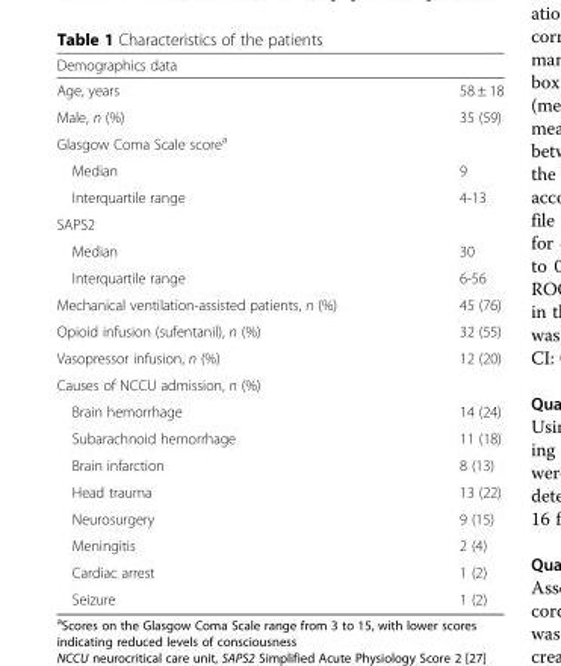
<table><thead><tr><td>Demographics data</td><td></td></tr></thead><tbody><tr><td>Age, years</td><td>58 ± 18</td></tr><tr><td>Male, n (%)</td><td>35 (59)</td></tr><tr><td colspan="2">Glasgow Coma Scale score<sup>a</sup></td></tr><tr><td>Median</td><td>9</td></tr><tr><td>Interquartile range</td><td>4-13</td></tr><tr><td colspan="2">SAPS2</td></tr><tr><td>Median</td><td>30</td></tr><tr><td>Interquartile range</td><td>6-56</td></tr><tr><td>Mechanical ventilation-assisted patients, n (%)</td><td>45 (76)</td></tr><tr><td>Opioid infusion (sufentanil), n (%)</td><td>32 (55)</td></tr><tr><td>Vasopressor infusion, n (%)</td><td>12 (20)</td></tr><tr><td colspan="2">Causes of NCCU admission, n (%)</td></tr><tr><td>Brain hemorrhage</td><td>14 (24)</td></tr><tr><td>Subarachnoid hemorrhage</td><td>11 (18)</td></tr><tr><td>Brain infarction</td><td>8 (13)</td></tr><tr><td>Head trauma</td><td>13 (22)</td></tr><tr><td>Neurosurgery</td><td>9 (15)</td></tr><tr><td>Meningitis</td><td>2 (4)</td></tr><tr><td>Cardiac arrest</td><td>1 (2)</td></tr><tr><td>Seizure</td><td>1 (2)</td></tr></tbody></table>